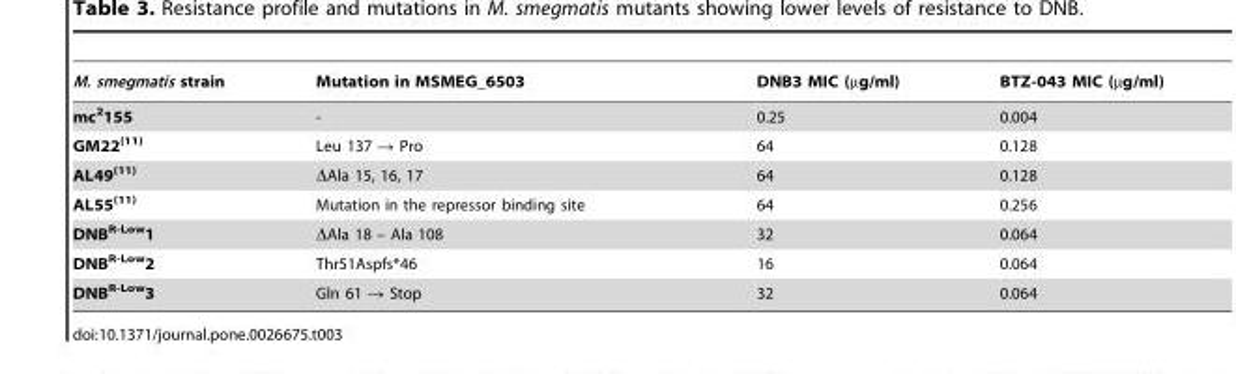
<table><thead><tr><td>M. smegmatis strain</td><td>Mutation in MSMEG_6503</td><td>DNB3 MIC (µg/ml)</td><td>BTZ-043 MIC (µg/ml)</td></tr></thead><tbody><tr><td>mc<sup>2</sup>155</td><td>-</td><td>0.25</td><td>0.004</td></tr><tr><td>GM22<sup>(11)</sup></td><td>Leu 137 → Pro</td><td>64</td><td>0.128</td></tr><tr><td>AL49<sup>(11)</sup></td><td>ΔAla 15, 16, 17</td><td>64</td><td>0.128</td></tr><tr><td>AL55<sup>(11)</sup></td><td>Mutation in the repressor binding site</td><td>64</td><td>0.256</td></tr><tr><td>DNB<sup>R-Low</sup>1</td><td>ΔAla 18 – Ala 108</td><td>32</td><td>0.064</td></tr><tr><td>DNB<sup>R-Low</sup>2</td><td>Thr51Aspfs*46</td><td>16</td><td>0.064</td></tr><tr><td>DNB<sup>R-Low</sup>3</td><td>Gln 61 → Stop</td><td>32</td><td>0.064</td></tr></tbody></table>